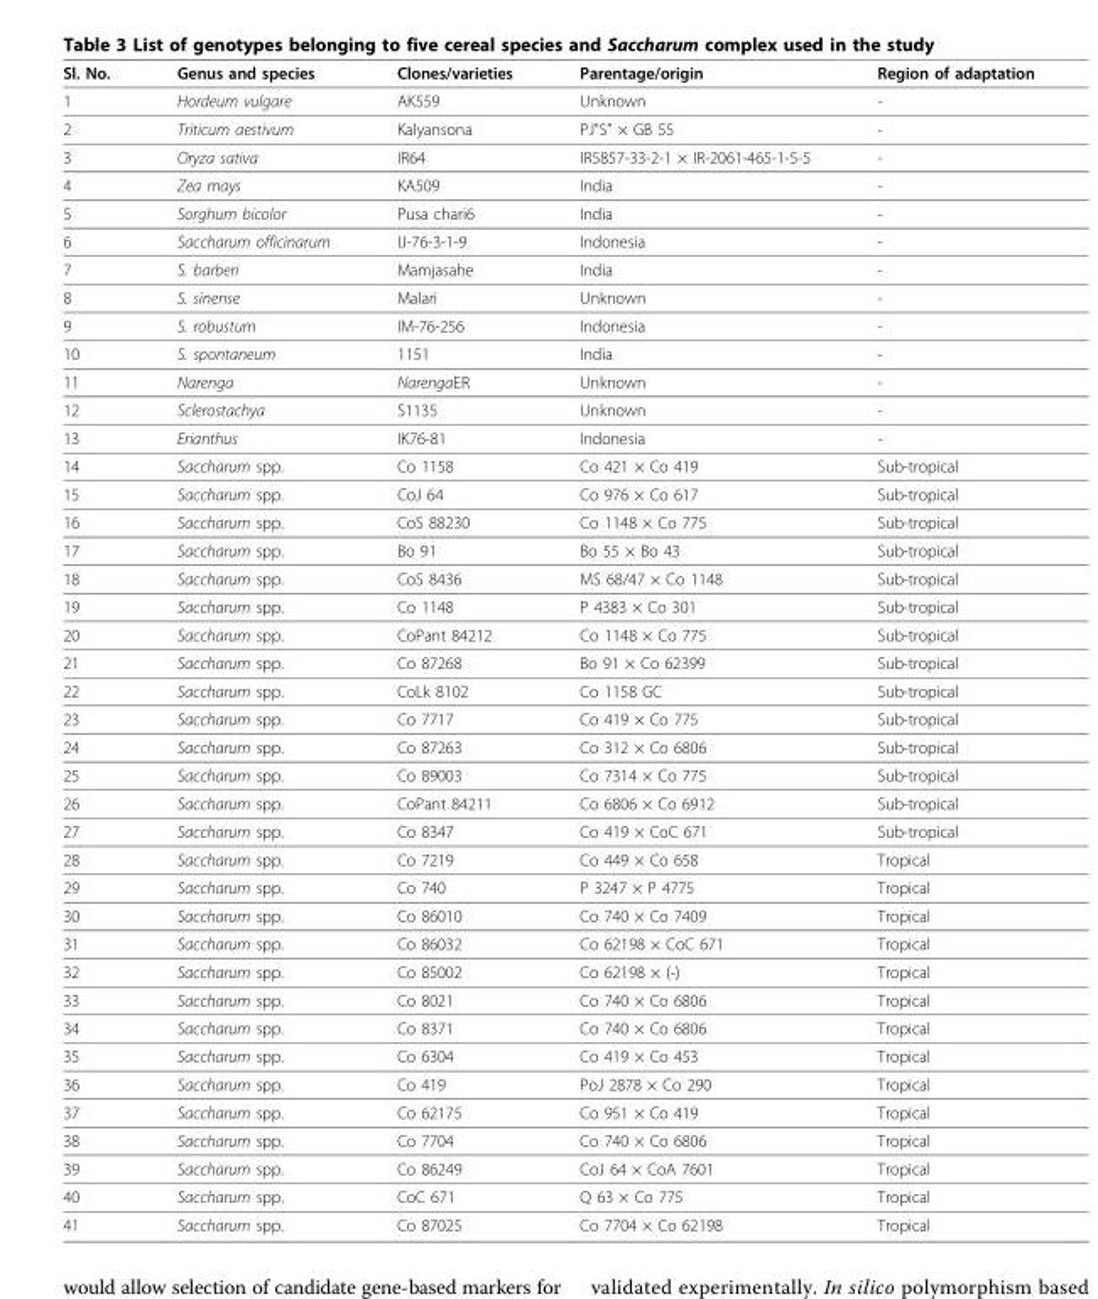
<table><thead><tr><td>Sl. No.</td><td>Genus and species</td><td>Clones/varieties</td><td>Parentage/origin</td><td>Region of adaptation</td></tr></thead><tbody><tr><td>1</td><td>Hordeum vulgare</td><td>AK559</td><td>Unknown</td><td>-</td></tr><tr><td>2</td><td>Triticum aestivum</td><td>Kalyansona</td><td>PJ&quot;S” × GB 55</td><td>-</td></tr><tr><td>3</td><td>Oryza sativa</td><td>IR64</td><td>IR5857-33-2-1 × IR-2061-465-1-5-5</td><td>-</td></tr><tr><td>4</td><td>Zea mays</td><td>KA509</td><td>India</td><td>-</td></tr><tr><td>5</td><td>Sorghum bicolor</td><td>Pusa chari6</td><td>India</td><td>-</td></tr><tr><td>6</td><td>Saccharum officinarum</td><td>IJ-76-3-1-9</td><td>Indonesia</td><td>-</td></tr><tr><td>7</td><td>S. barberi</td><td>Mamjasahe</td><td>India</td><td>-</td></tr><tr><td>8</td><td>S. sinense</td><td>Malari</td><td>Unknown</td><td>-</td></tr><tr><td>9</td><td>S. robustum</td><td>IM-76-256</td><td>Indonesia</td><td>-</td></tr><tr><td>10</td><td>S. spontaneum</td><td>1151</td><td>India</td><td>-</td></tr><tr><td>11</td><td>Narenga</td><td>NarengaER</td><td>Unknown</td><td>-</td></tr><tr><td>12</td><td>Sclerostachya</td><td>S1135</td><td>Unknown</td><td>-</td></tr><tr><td>13</td><td>Erianthus</td><td>IK76-81</td><td>Indonesia</td><td>-</td></tr><tr><td>14</td><td>Saccharum spp.</td><td>Co 1158</td><td>Co 421 × Co 419</td><td>Sub-tropical</td></tr><tr><td>15</td><td>Saccharum spp.</td><td>CoJ 64</td><td>Co 976 × Co 617</td><td>Sub-tropical</td></tr><tr><td>16</td><td>Saccharum spp.</td><td>CoS 88230</td><td>Co 1148 × Co 775</td><td>Sub-tropical</td></tr><tr><td>17</td><td>Saccharum spp.</td><td>Bo 91</td><td>Bo 55 × Bo 43</td><td>Sub-tropical</td></tr><tr><td>18</td><td>Saccharum spp.</td><td>CoS 8436</td><td>MS 68/47 × Co 1148</td><td>Sub-tropical</td></tr><tr><td>19</td><td>Saccharum spp.</td><td>Co 1148</td><td>P 4383 × Co 301</td><td>Sub-tropical</td></tr><tr><td>20</td><td>Saccharum spp.</td><td>CoPant 84212</td><td>Co 1148 × Co 775</td><td>Sub-tropical</td></tr><tr><td>21</td><td>Saccharum spp.</td><td>Co 87268</td><td>Bo 91 × Co 62399</td><td>Sub-tropical</td></tr><tr><td>22</td><td>Saccharum spp.</td><td>CoLk 8102</td><td>Co 1158 GC</td><td>Sub-tropical</td></tr><tr><td>23</td><td>Saccharum spp.</td><td>Co 7717</td><td>Co 419 × Co 775</td><td>Sub-tropical</td></tr><tr><td>24</td><td>Saccharum spp.</td><td>Co 87263</td><td>Co 312 × Co 6806</td><td>Sub-tropical</td></tr><tr><td>25</td><td>Saccharum spp.</td><td>Co 89003</td><td>Co 7314 × Co 775</td><td>Sub-tropical</td></tr><tr><td>26</td><td>Saccharum spp.</td><td>CoPant 84211</td><td>Co 6806 × Co 6912</td><td>Sub-tropical</td></tr><tr><td>27</td><td>Saccharum spp.</td><td>Co 8347</td><td>Co 419 × CoC 671</td><td>Sub-tropical</td></tr><tr><td>28</td><td>Saccharum spp.</td><td>Co 7219</td><td>Co 449 × Co 658</td><td>Tropical</td></tr><tr><td>29</td><td>Saccharum spp.</td><td>Co 740</td><td>P 3247 × P 4775</td><td>Tropical</td></tr><tr><td>30</td><td>Saccharum spp.</td><td>Co 86010</td><td>Co 740 × Co 7409</td><td>Tropical</td></tr><tr><td>31</td><td>Saccharum spp.</td><td>Co 86032</td><td>Co 62198 × CoC 671</td><td>Tropical</td></tr><tr><td>32</td><td>Saccharum spp.</td><td>Co 85002</td><td>Co 62198 × (-)</td><td>Tropical</td></tr><tr><td>33</td><td>Saccharum spp.</td><td>Co 8021</td><td>Co 740 × Co 6806</td><td>Tropical</td></tr><tr><td>34</td><td>Saccharum spp.</td><td>Co 8371</td><td>Co 740 × Co 6806</td><td>Tropical</td></tr><tr><td>35</td><td>Saccharum spp.</td><td>Co 6304</td><td>Co 419 × Co 453</td><td>Tropical</td></tr><tr><td>36</td><td>Saccharum spp.</td><td>Co 419</td><td>PoJ 2878 × Co 290</td><td>Tropical</td></tr><tr><td>37</td><td>Saccharum spp.</td><td>Co 62175</td><td>Co 951 × Co 419</td><td>Tropical</td></tr><tr><td>38</td><td>Saccharum spp.</td><td>Co 7704</td><td>Co 740 × Co 6806</td><td>Tropical</td></tr><tr><td>39</td><td>Saccharum spp.</td><td>Co 86249</td><td>CoJ 64 × CoA 7601</td><td>Tropical</td></tr><tr><td>40</td><td>Saccharum spp.</td><td>CoC 671</td><td>Q 63 × Co 775</td><td>Tropical</td></tr><tr><td>41</td><td>Saccharum spp.</td><td>Co 87025</td><td>Co 7704 × Co 62198</td><td>Tropical</td></tr></tbody></table>